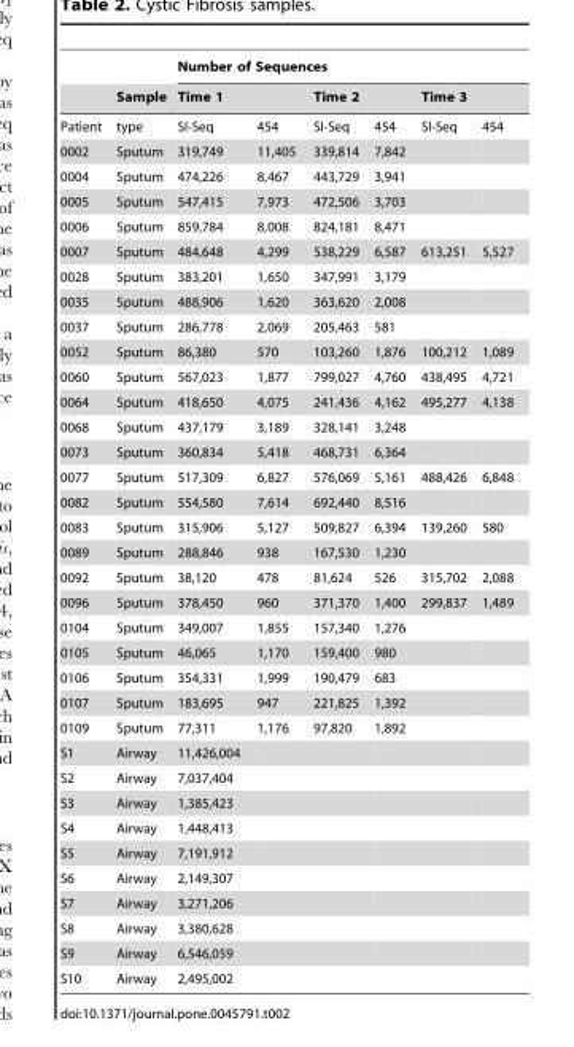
<table><thead><tr><td rowspan="3">Patient</td><td rowspan="3">Sample type</td><td colspan="6">Number of Sequences</td></tr><tr><td colspan="2">Time 1</td><td colspan="2">Time 2</td><td colspan="2">Time 3</td></tr><tr><td>SI-Seq</td><td>454</td><td>SI-Seq</td><td>454</td><td>SI-Seq</td><td>454</td></tr></thead><tbody><tr><td>0002</td><td>Sputum</td><td>319,749</td><td>11,405</td><td>339,814</td><td>7,842</td><td></td><td></td></tr><tr><td>0004</td><td>Sputum</td><td>474,226</td><td>8,467</td><td>443,729</td><td>3,941</td><td></td><td></td></tr><tr><td>0005</td><td>Sputum</td><td>547,415</td><td>7,973</td><td>472,506</td><td>3,703</td><td></td><td></td></tr><tr><td>0006</td><td>Sputum</td><td>859,784</td><td>8,008</td><td>824,181</td><td>8,471</td><td></td><td></td></tr><tr><td>0007</td><td>Sputum</td><td>484,648</td><td>4,299</td><td>538,229</td><td>6,587</td><td>613,251</td><td>5,527</td></tr><tr><td>0028</td><td>Sputum</td><td>383,201</td><td>1,650</td><td>347,991</td><td>3,179</td><td></td><td></td></tr><tr><td>0035</td><td>Sputum</td><td>488,906</td><td>1,620</td><td>363,620</td><td>2,008</td><td></td><td></td></tr><tr><td>0037</td><td>Sputum</td><td>286,778</td><td>2,069</td><td>205,463</td><td>581</td><td></td><td></td></tr><tr><td>0052</td><td>Sputum</td><td>86,380</td><td>570</td><td>103,260</td><td>1,876</td><td>100,212</td><td>1,089</td></tr><tr><td>0060</td><td>Sputum</td><td>567,023</td><td>1,877</td><td>799,027</td><td>4,760</td><td>438,495</td><td>4,721</td></tr><tr><td>0064</td><td>Sputum</td><td>418,650</td><td>4,075</td><td>241,436</td><td>4,162</td><td>495,277</td><td>4,138</td></tr><tr><td>0068</td><td>Sputum</td><td>437,179</td><td>3,189</td><td>328,141</td><td>3,248</td><td></td><td></td></tr><tr><td>0073</td><td>Sputum</td><td>360,834</td><td>5,418</td><td>468,731</td><td>6,364</td><td></td><td></td></tr><tr><td>0077</td><td>Sputum</td><td>517,309</td><td>6,827</td><td>576,069</td><td>5,161</td><td>488,426</td><td>6,848</td></tr><tr><td>0082</td><td>Sputum</td><td>554,580</td><td>7,614</td><td>692,440</td><td>8,516</td><td></td><td></td></tr><tr><td>0083</td><td>Sputum</td><td>315,906</td><td>5,127</td><td>509,827</td><td>6,394</td><td>139,260</td><td>580</td></tr><tr><td>0089</td><td>Sputum</td><td>288,846</td><td>938</td><td>167,530</td><td>1,230</td><td></td><td></td></tr><tr><td>0092</td><td>Sputum</td><td>38,120</td><td>478</td><td>81,624</td><td>526</td><td>315,702</td><td>2,088</td></tr><tr><td>0096</td><td>Sputum</td><td>378,450</td><td>960</td><td>371,370</td><td>1,400</td><td>299,837</td><td>1,489</td></tr><tr><td>0104</td><td>Sputum</td><td>349,007</td><td>1,855</td><td>157,340</td><td>1,276</td><td></td><td></td></tr><tr><td>0105</td><td>Sputum</td><td>46,065</td><td>1,170</td><td>159,400</td><td>980</td><td></td><td></td></tr><tr><td>0106</td><td>Sputum</td><td>354,331</td><td>1,999</td><td>190,479</td><td>683</td><td></td><td></td></tr><tr><td>0107</td><td>Sputum</td><td>183,695</td><td>947</td><td>221,825</td><td>1,392</td><td></td><td></td></tr><tr><td>0109</td><td>Sputum</td><td>77,311</td><td>1,176</td><td>97,820</td><td>1,892</td><td></td><td></td></tr><tr><td>S1</td><td>Airway</td><td>11,426,004</td><td></td><td></td><td></td><td></td><td></td></tr><tr><td>S2</td><td>Airway</td><td>7,037,404</td><td></td><td></td><td></td><td></td><td></td></tr><tr><td>S3</td><td>Airway</td><td>1,385,423</td><td></td><td></td><td></td><td></td><td></td></tr><tr><td>S4</td><td>Airway</td><td>1,448,413</td><td></td><td></td><td></td><td></td><td></td></tr><tr><td>S5</td><td>Airway</td><td>7,191,912</td><td></td><td></td><td></td><td></td><td></td></tr><tr><td>S6</td><td>Airway</td><td>2,149,307</td><td></td><td></td><td></td><td></td><td></td></tr><tr><td>S7</td><td>Airway</td><td>3,271,206</td><td></td><td></td><td></td><td></td><td></td></tr><tr><td>S8</td><td>Airway</td><td>3,380,628</td><td></td><td></td><td></td><td></td><td></td></tr><tr><td>S9</td><td>Airway</td><td>6,546,059</td><td></td><td></td><td></td><td></td><td></td></tr><tr><td>S10</td><td>Airway</td><td>2,495,002</td><td></td><td></td><td></td><td></td><td></td></tr></tbody></table>